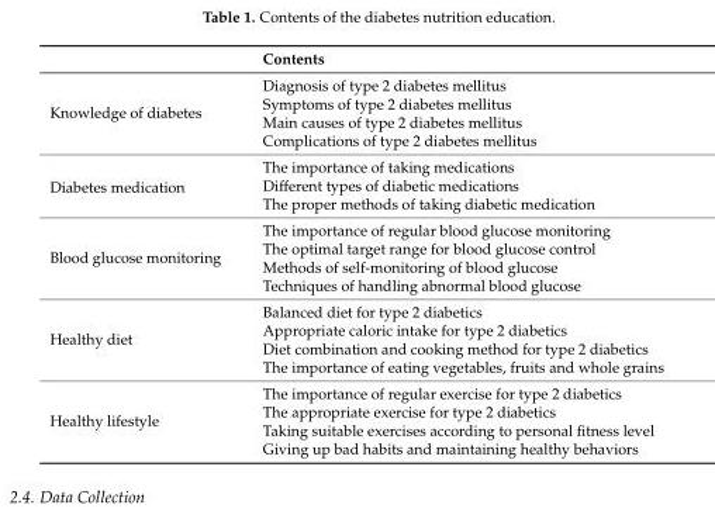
<table><thead><tr><td></td><td>Contents</td></tr></thead><tbody><tr><td rowspan="4">Knowledge of diabetes</td><td>Diagnosis of type 2 diabetes mellitus</td></tr><tr><td>Symptoms of type 2 diabetes mellitus</td></tr><tr><td>Main causes of type 2 diabetes mellitus</td></tr><tr><td>Complications of type 2 diabetes mellitus</td></tr><tr><td rowspan="3">Diabetes medication</td><td>The importance of taking medications</td></tr><tr><td>Different types of diabetic medications</td></tr><tr><td>The proper methods of taking diabetic medication</td></tr><tr><td rowspan="4">Blood glucose monitoring</td><td>The importance of regular blood glucose monitoring</td></tr><tr><td>The optimal target range for blood glucose control</td></tr><tr><td>Methods of self-monitoring of blood glucose</td></tr><tr><td>Techniques of handling abnormal blood glucose</td></tr><tr><td rowspan="4">Healthy diet</td><td>Balanced diet for type 2 diabetics</td></tr><tr><td>Appropriate caloric intake for type 2 diabetics</td></tr><tr><td>Diet combination and cooking method for type 2 diabetics</td></tr><tr><td>The importance of eating vegetables, fruits and whole grains</td></tr><tr><td rowspan="4">Healthy lifestyle</td><td>The importance of regular exercise for type 2 diabetics</td></tr><tr><td>The appropriate exercise for type 2 diabetics</td></tr><tr><td>Taking suitable exercises according to personal fitness level</td></tr><tr><td>Giving up bad habits and maintaining healthy behaviors</td></tr></tbody></table>